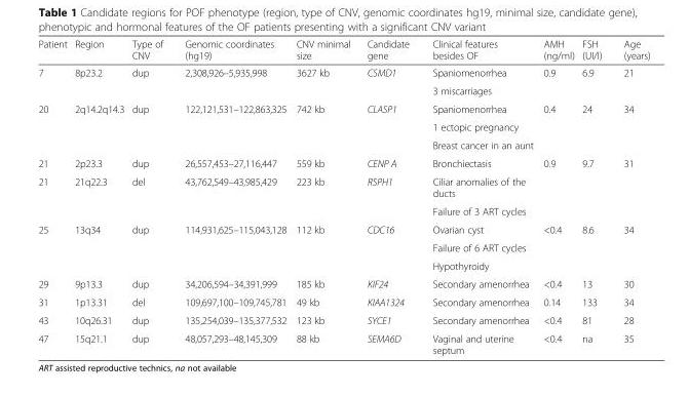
<table><thead><tr><td>Patient</td><td>Region</td><td>Type of CNV</td><td>Genomic coordinates (hg19)</td><td>CNV minimal size</td><td>Candidate gene</td><td>Clinical features besides OF</td><td>AMH (ng/ml)</td><td>FSH (UI/l)</td><td>Age (years)</td></tr></thead><tbody><tr><td rowspan="2">7</td><td rowspan="2">8p23.2</td><td rowspan="2">dup</td><td rowspan="2">2,308,926–5,935,998</td><td rowspan="2">3627 kb</td><td rowspan="2">CSMD1</td><td>Spaniomenorrhea</td><td rowspan="2">0.9</td><td rowspan="2">6.9</td><td rowspan="2">21</td></tr><tr><td>3 miscarriages</td></tr><tr><td rowspan="3">20</td><td rowspan="3">2q14.2q14.3</td><td rowspan="3">dup</td><td rowspan="3">122,121,531–122,863,325</td><td rowspan="3">742 kb</td><td rowspan="3">CLASP1</td><td>Spaniomenorrhea</td><td rowspan="3">0.4</td><td rowspan="3">24</td><td rowspan="3">34</td></tr><tr><td>1 ectopic pregnancy</td></tr><tr><td>Breast cancer in an aunt</td></tr><tr><td>21</td><td>2p23.3</td><td>dup</td><td>26,557,453–27,116,447</td><td>559 kb</td><td>CENP A</td><td>Bronchiectasis</td><td rowspan="3">0.9</td><td rowspan="3">9.7</td><td rowspan="3">31</td></tr><tr><td rowspan="2">21</td><td rowspan="2">21q22.3</td><td rowspan="2">del</td><td rowspan="2">43,762,549–43,985,429</td><td rowspan="2">223 kb</td><td rowspan="2">RSPH1</td><td>Ciliar anomalies of the ducts</td></tr><tr><td>Failure of 3 ART cycles</td></tr><tr><td rowspan="3">25</td><td rowspan="3">13q34</td><td rowspan="3">dup</td><td rowspan="3">114,931,625–115,043,128</td><td rowspan="3">112 kb</td><td rowspan="3">CDC16</td><td>Ovarian cyst</td><td rowspan="3">&lt;0.4</td><td rowspan="3">8.6</td><td rowspan="3">34</td></tr><tr><td>Failure of 6 ART cycles</td></tr><tr><td>Hypothyroidy</td></tr><tr><td>29</td><td>9p13.3</td><td>dup</td><td>34,206,594–34,391,999</td><td>185 kb</td><td>KIF24</td><td>Secondary amenorrhea</td><td>&lt;0.4</td><td>13</td><td>30</td></tr><tr><td>31</td><td>1p13.31</td><td>del</td><td>109,697,100–109,745,781</td><td>49 kb</td><td>KIAA1324</td><td>Secondary amenorrhea</td><td>0.14</td><td>133</td><td>34</td></tr><tr><td>43</td><td>10q26.31</td><td>dup</td><td>135,254,039–135,377,532</td><td>123 kb</td><td>SYCE1</td><td>Secondary amenorrhea</td><td>&lt;0.4</td><td>81</td><td>28</td></tr><tr><td>47</td><td>15q21.1</td><td>dup</td><td>48,057,293–48,145,309</td><td>88 kb</td><td>SEMA6D</td><td>Vaginal and uterine septum</td><td>&lt;0.4</td><td>na</td><td>35</td></tr></tbody></table>